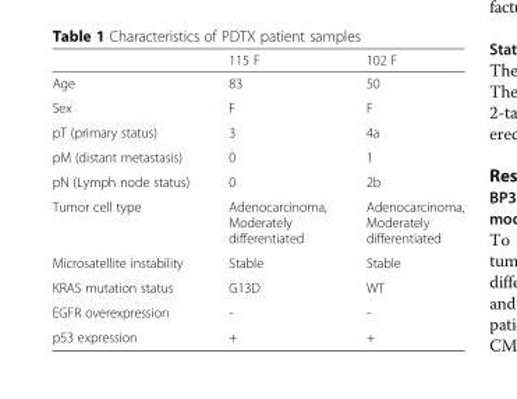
<table><thead><tr><td></td><td>115 F</td><td>102 F</td></tr></thead><tbody><tr><td>Age</td><td>83</td><td>50</td></tr><tr><td>Sex</td><td>F</td><td>F</td></tr><tr><td>pT (primary status)</td><td>3</td><td>4a</td></tr><tr><td>pM (distant metastasis)</td><td>0</td><td>1</td></tr><tr><td>pN (Lymph node status)</td><td>0</td><td>2b</td></tr><tr><td>Tumor cell type</td><td>Adenocarcinoma, Moderately differentiated</td><td>Adenocarcinoma, Moderately differentiated</td></tr><tr><td>Microsatellite instability</td><td>Stable</td><td>Stable</td></tr><tr><td>KRAS mutation status</td><td>G13D</td><td>WT</td></tr><tr><td>EGFR overexpression</td><td>-</td><td>-</td></tr><tr><td>p53 expression</td><td>+</td><td>+</td></tr></tbody></table>